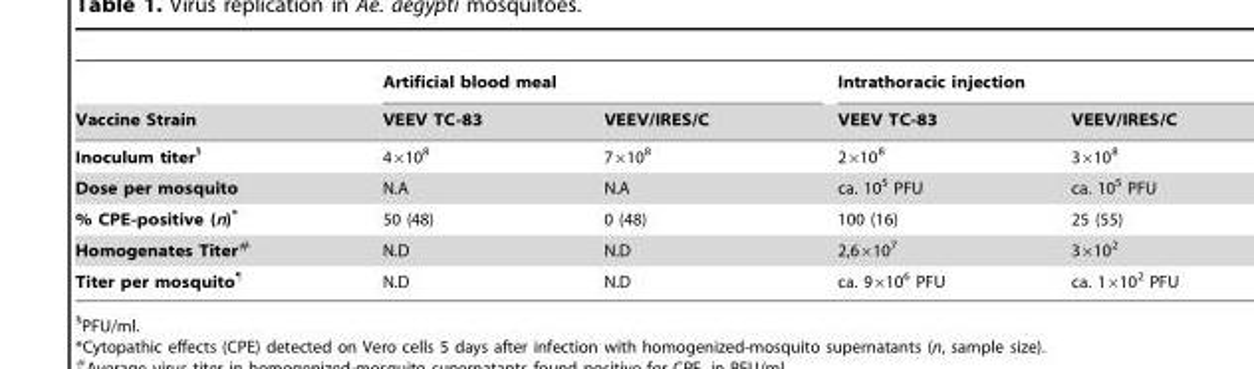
<table><thead><tr><td rowspan="2">Vaccine Strain</td><td colspan="2">Artificial blood meal</td><td colspan="2">Intrathoracic injection</td></tr><tr><td>VEEV TC-83</td><td>VEEV/IRES/C</td><td>VEEV TC-83</td><td>VEEV/IRES/C</td></tr></thead><tbody><tr><td>Inoculum titer§</td><td>4×10<sup>8</sup></td><td>7×10<sup>8</sup></td><td>2×10<sup>8</sup></td><td>3×10<sup>8</sup></td></tr><tr><td>Dose per mosquito</td><td>N.A</td><td>N.A</td><td>ca. 10<sup>5</sup> PFU</td><td>ca. 10<sup>5</sup> PFU</td></tr><tr><td>% CPE-positive (n)*</td><td>50 (48)</td><td>0 (48)</td><td>100 (16)</td><td>25 (55)</td></tr><tr><td>Homogenates Titer#</td><td>N.D</td><td>N.D</td><td>2,6×10<sup>7</sup></td><td>3×10<sup>2</sup></td></tr><tr><td>Titer per mosquito¶</td><td>N.D</td><td>N.D</td><td>ca. 9×10<sup>6</sup> PFU</td><td>ca. 1×10<sup>2</sup> PFU</td></tr></tbody></table>